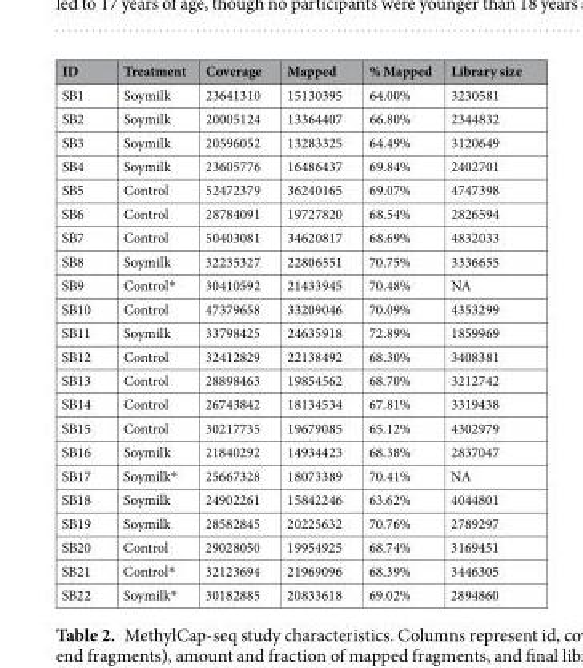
<table><thead><tr><td>ID</td><td>Treatment</td><td>Coverage</td><td>Mapped</td><td>% Mapped</td><td>Library size</td></tr></thead><tbody><tr><td>SB1</td><td>Soymilk</td><td>23641310</td><td>15130395</td><td>64.00%</td><td>3230581</td></tr><tr><td>SB2</td><td>Soymilk</td><td>20005124</td><td>13364407</td><td>66.80%</td><td>2344832</td></tr><tr><td>SB3</td><td>Soymilk</td><td>20596052</td><td>13283325</td><td>64.49%</td><td>3120649</td></tr><tr><td>SB4</td><td>Soymilk</td><td>23605776</td><td>16486437</td><td>69.84%</td><td>2402701</td></tr><tr><td>SB5</td><td>Control</td><td>52472379</td><td>36240165</td><td>69.07%</td><td>4747398</td></tr><tr><td>SB6</td><td>Control</td><td>28784091</td><td>19727820</td><td>68.54%</td><td>2826594</td></tr><tr><td>SB7</td><td>Control</td><td>50403081</td><td>34620817</td><td>68.69%</td><td>4832033</td></tr><tr><td>SB8</td><td>Soymilk</td><td>32235327</td><td>22806551</td><td>70.75%</td><td>3336655</td></tr><tr><td>SB9</td><td>Control*</td><td>30410592</td><td>21433945</td><td>70.48%</td><td>NA</td></tr><tr><td>SB10</td><td>Control</td><td>47379658</td><td>33209046</td><td>70.09%</td><td>4353299</td></tr><tr><td>SB11</td><td>Soymilk</td><td>33798425</td><td>24635918</td><td>72.89%</td><td>1859969</td></tr><tr><td>SB12</td><td>Control</td><td>32412829</td><td>22138492</td><td>68.30%</td><td>3408381</td></tr><tr><td>SB13</td><td>Control</td><td>28898463</td><td>19854562</td><td>68.70%</td><td>3212742</td></tr><tr><td>SB14</td><td>Control</td><td>26743842</td><td>18134534</td><td>67.81%</td><td>3319438</td></tr><tr><td>SB15</td><td>Control</td><td>30217735</td><td>19679085</td><td>65.12%</td><td>4302979</td></tr><tr><td>SB16</td><td>Soymilk</td><td>21840292</td><td>14934423</td><td>68.38%</td><td>2837047</td></tr><tr><td>SB17</td><td>Soymilk*</td><td>25667328</td><td>18073389</td><td>70.41%</td><td>NA</td></tr><tr><td>SB18</td><td>Soymilk</td><td>24902261</td><td>15842246</td><td>63.62%</td><td>4044801</td></tr><tr><td>SB19</td><td>Soymilk</td><td>28582845</td><td>20225632</td><td>70.76%</td><td>2789297</td></tr><tr><td>SB20</td><td>Control</td><td>29028050</td><td>19954925</td><td>68.74%</td><td>3169451</td></tr><tr><td>SB21</td><td>Control*</td><td>32123694</td><td>21969096</td><td>68.39%</td><td>3446305</td></tr><tr><td>SB22</td><td>Soymilk*</td><td>30182885</td><td>20833618</td><td>69.02%</td><td>2894860</td></tr></tbody></table>